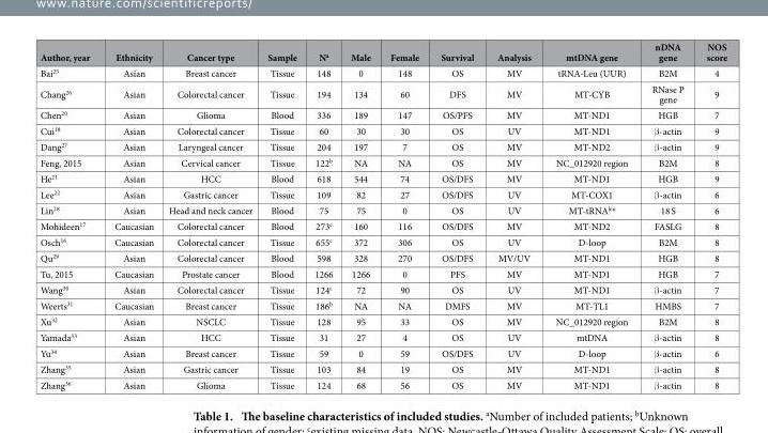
<table><thead><tr><td>Author, year</td><td>Ethnicity</td><td>Cancer type</td><td>Sample</td><td>N<sup>a</sup></td><td>Male</td><td>Female</td><td>Survival</td><td>Analysis</td><td>mtDNA gene</td><td>nDNA gene</td><td>NOS score</td></tr></thead><tbody><tr><td>Bai<sup>25</sup></td><td>Asian</td><td>Breast cancer</td><td>Tissue</td><td>148</td><td>0</td><td>148</td><td>OS</td><td>MV</td><td>tRNA-Leu (UUR)</td><td>B2M</td><td>4</td></tr><tr><td>Chang<sup>26</sup></td><td>Asian</td><td>Colorectal cancer</td><td>Tissue</td><td>194</td><td>134</td><td>60</td><td>DFS</td><td>MV</td><td>MT-CYB</td><td>RNase P gene</td><td>9</td></tr><tr><td>Chen<sup>20</sup></td><td>Asian</td><td>Glioma</td><td>Blood</td><td>336</td><td>189</td><td>147</td><td>OS/PFS</td><td>MV</td><td>MT-ND1</td><td>HGB</td><td>7</td></tr><tr><td>Cui<sup>18</sup></td><td>Asian</td><td>Colorectal cancer</td><td>Tissue</td><td>60</td><td>30</td><td>30</td><td>OS</td><td>UV</td><td>MT-ND1</td><td>β -actin</td><td>9</td></tr><tr><td>Dang<sup>27</sup></td><td>Asian</td><td>Laryngeal cancer</td><td>Tissue</td><td>204</td><td>197</td><td>7</td><td>OS</td><td>MV</td><td>MT-ND2</td><td>β -actin</td><td>9</td></tr><tr><td>Feng, 2015</td><td>Asian</td><td>Cervical cancer</td><td>Tissue</td><td>122<sup>b</sup></td><td>NA</td><td>NA</td><td>OS</td><td>MV</td><td>NC_012920 region</td><td>B2M</td><td>8</td></tr><tr><td>He<sup>21</sup></td><td>Asian</td><td>HCC</td><td>Blood</td><td>618</td><td>544</td><td>74</td><td>OS/DFS</td><td>MV</td><td>MT-ND1</td><td>HGB</td><td>9</td></tr><tr><td>Lee<sup>22</sup></td><td>Asian</td><td>Gastric cancer</td><td>Tissue</td><td>109</td><td>82</td><td>27</td><td>OS/DFS</td><td>UV</td><td>MT-COX1</td><td>β -actin</td><td>6</td></tr><tr><td>Lin<sup>28</sup></td><td>Asian</td><td>Head and neck cancer</td><td>Blood</td><td>75</td><td>75</td><td>0</td><td>OS</td><td>UV</td><td>MT-tRNA<sup>leu</sup></td><td>18 S</td><td>6</td></tr><tr><td>Mohideen<sup>17</sup></td><td>Caucasian</td><td>Colorectal cancer</td><td>Blood</td><td>273<sup>c</sup></td><td>160</td><td>116</td><td>OS/DFS</td><td>MV</td><td>MT-ND2</td><td>FASLG</td><td>8</td></tr><tr><td>Osch<sup>16</sup></td><td>Caucasian</td><td>Colorectal cancer</td><td>Tissue</td><td>655<sup>c</sup></td><td>372</td><td>306</td><td>OS</td><td>UV</td><td>D-loop</td><td>B2M</td><td>8</td></tr><tr><td>Qu<sup>29</sup></td><td>Asian</td><td>Colorectal cancer</td><td>Blood</td><td>598</td><td>328</td><td>270</td><td>OS/DFS</td><td>MV/UV</td><td>MT-ND1</td><td>HGB</td><td>8</td></tr><tr><td>Tu, 2015</td><td>Caucasian</td><td>Prostate cancer</td><td>Blood</td><td>1266</td><td>1266</td><td>0</td><td>PFS</td><td>MV</td><td>MT-ND1</td><td>HGB</td><td>7</td></tr><tr><td>Wang<sup>30</sup></td><td>Asian</td><td>Colorectal cancer</td><td>Tissue</td><td>124<sup>c</sup></td><td>72</td><td>90</td><td>OS</td><td>UV</td><td>MT-ND1</td><td>β -actin</td><td>7</td></tr><tr><td>Weerts<sup>31</sup></td><td>Caucasian</td><td>Breast cancer</td><td>Tissue</td><td>186<sup>b</sup></td><td>NA</td><td>NA</td><td>DMFS</td><td>MV</td><td>MT-TL1</td><td>HMBS</td><td>7</td></tr><tr><td>Xu<sup>32</sup></td><td>Asian</td><td>NSCLC</td><td>Tissue</td><td>128</td><td>95</td><td>33</td><td>OS</td><td>MV</td><td>NC_012920 region</td><td>B2M</td><td>8</td></tr><tr><td>Yamada<sup>33</sup></td><td>Asian</td><td>HCC</td><td>Tissue</td><td>31</td><td>27</td><td>4</td><td>OS</td><td>UV</td><td>mtDNA</td><td>β -actin</td><td>8</td></tr><tr><td>Yu<sup>34</sup></td><td>Asian</td><td>Breast cancer</td><td>Tissue</td><td>59</td><td>0</td><td>59</td><td>OS/DFS</td><td>UV</td><td>D-loop</td><td>β -actin</td><td>6</td></tr><tr><td>Zhang<sup>35</sup></td><td>Asian</td><td>Gastric cancer</td><td>Tissue</td><td>103</td><td>84</td><td>19</td><td>OS</td><td>MV</td><td>MT-ND1</td><td>β -actin</td><td>8</td></tr><tr><td>Zhang<sup>36</sup></td><td>Asian</td><td>Glioma</td><td>Tissue</td><td>124</td><td>68</td><td>56</td><td>OS</td><td>MV</td><td>MT-ND1</td><td>β -actin</td><td>8</td></tr></tbody></table>